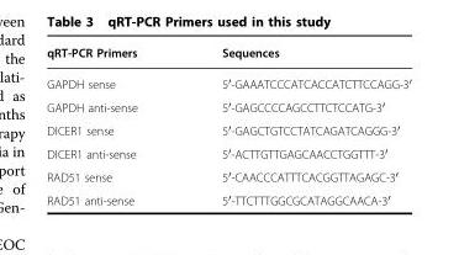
<table><thead><tr><td>qRT-PCR Primers</td><td>Sequences</td></tr></thead><tbody><tr><td>GAPDH sense</td><td>5′-GAAATCCCATCACCATCTTCCAGG-3′</td></tr><tr><td>GAPDH anti-sense</td><td>5′-GAGCCCCAGCCTTCTCCATG-3′</td></tr><tr><td>DICER1 sense</td><td>5′-GAGCTGTCCTATCAGATCAGGG-3′</td></tr><tr><td>DICER1 anti-sense</td><td>5′-ACTTGTTGAGCAACCTGGTTT-3′</td></tr><tr><td>RAD51 sense</td><td>5′-CAACCCATTTCACGGTTAGAGC-3′</td></tr><tr><td>RAD51 anti-sense</td><td>5′-TTCTTTGGCGCATAGGCAACA-3′</td></tr></tbody></table>